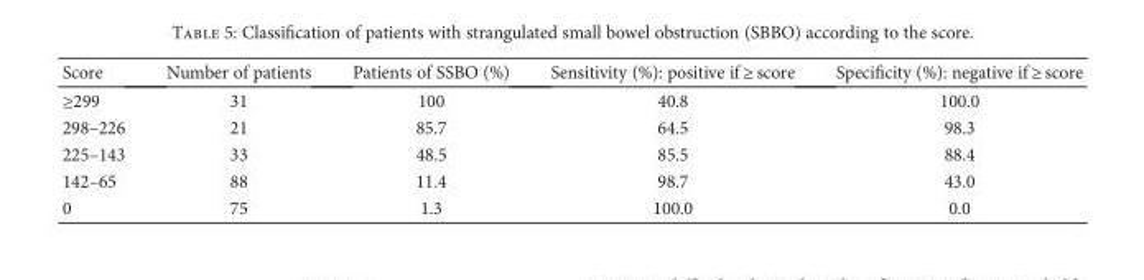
<table><thead><tr><td>Score</td><td>Number of patients</td><td>Patients of SSBO (%)</td><td>Sensitivity (%): positive if ≥ score</td><td>Specificity (%): negative if ≥ score</td></tr></thead><tbody><tr><td>≥299</td><td>31</td><td>100</td><td>40.8</td><td>100.0</td></tr><tr><td>298–226</td><td>21</td><td>85.7</td><td>64.5</td><td>98.3</td></tr><tr><td>225–143</td><td>33</td><td>48.5</td><td>85.5</td><td>88.4</td></tr><tr><td>142–65</td><td>88</td><td>11.4</td><td>98.7</td><td>43.0</td></tr><tr><td>0</td><td>75</td><td>1.3</td><td>100.0</td><td>0.0</td></tr></tbody></table>